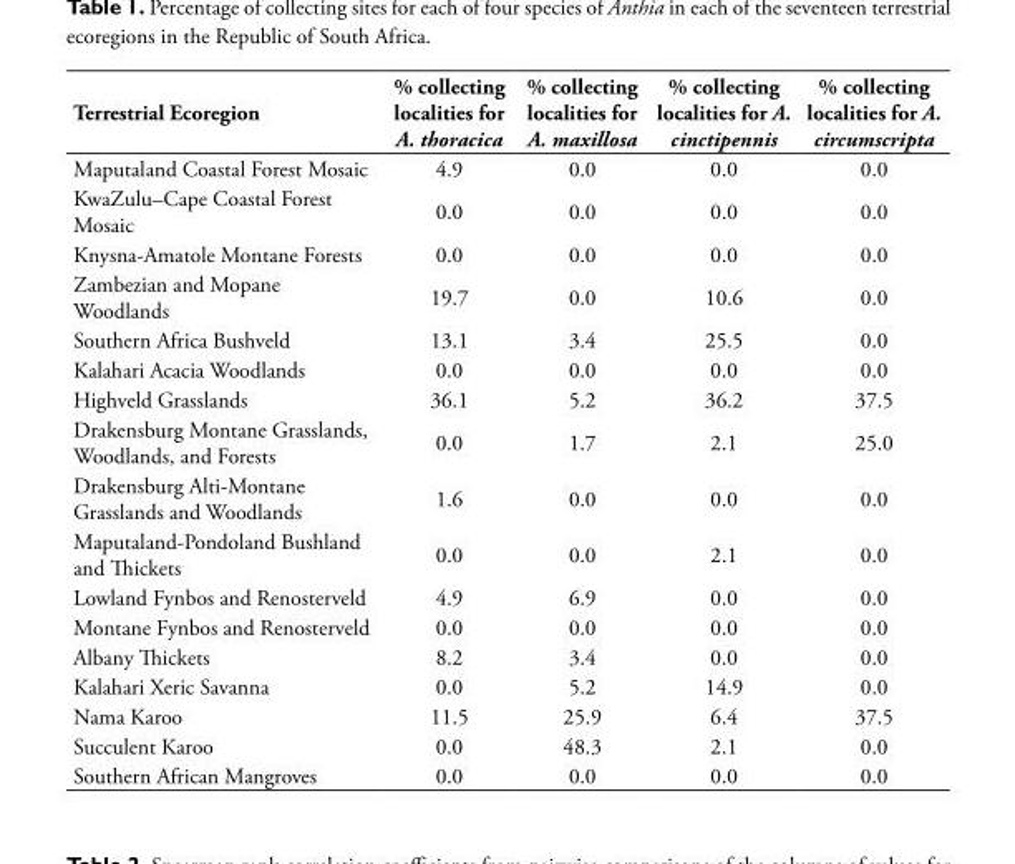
<table><tbody><tr><td>Terrestrial Ecoregion</td><td>% collecting localities for A. thoracica</td><td>% collecting localities for A. maxillosa</td><td>% collecting localities for A. cinctipennis</td><td>% collecting localities for A. circumscripta</td></tr><tr><td>Maputaland Coastal Forest Mosaic</td><td>4.9</td><td>0.0</td><td>0.0</td><td>0.0</td></tr><tr><td>KwaZulu–Cape Coastal Forest Mosaic</td><td>0.0</td><td>0.0</td><td>0.0</td><td>0.0</td></tr><tr><td>Knysna-Amatole Montane Forests</td><td>0.0</td><td>0.0</td><td>0.0</td><td>0.0</td></tr><tr><td>Zambezian and Mopane Woodlands</td><td>19.7</td><td>0.0</td><td>10.6</td><td>0.0</td></tr><tr><td>Southern Africa Bushveld</td><td>13.1</td><td>3.4</td><td>25.5</td><td>0.0</td></tr><tr><td>Kalahari Acacia Woodlands</td><td>0.0</td><td>0.0</td><td>0.0</td><td>0.0</td></tr><tr><td>Highveld Grasslands</td><td>36.1</td><td>5.2</td><td>36.2</td><td>37.5</td></tr><tr><td>Drakensburg Montane Grasslands, Woodlands, and Forests</td><td>0.0</td><td>1.7</td><td>2.1</td><td>25.0</td></tr><tr><td>Drakensburg Alti-Montane Grasslands and Woodlands</td><td>1.6</td><td>0.0</td><td>0.0</td><td>0.0</td></tr><tr><td>Maputaland-Pondoland Bushland and Thickets</td><td>0.0</td><td>0.0</td><td>2.1</td><td>0.0</td></tr><tr><td>Lowland Fynbos and Renosterveld</td><td>4.9</td><td>6.9</td><td>0.0</td><td>0.0</td></tr><tr><td>Montane Fynbos and Renosterveld</td><td>0.0</td><td>0.0</td><td>0.0</td><td>0.0</td></tr><tr><td>Albany Thickets</td><td>8.2</td><td>3.4</td><td>0.0</td><td>0.0</td></tr><tr><td>Kalahari Xeric Savanna</td><td>0.0</td><td>5.2</td><td>14.9</td><td>0.0</td></tr><tr><td>Nama Karoo</td><td>11.5</td><td>25.9</td><td>6.4</td><td>37.5</td></tr><tr><td>Succulent Karoo</td><td>0.0</td><td>48.3</td><td>2.1</td><td>0.0</td></tr><tr><td>Southern African Mangroves</td><td>0.0</td><td>0.0</td><td>0.0</td><td>0.0</td></tr></tbody></table>